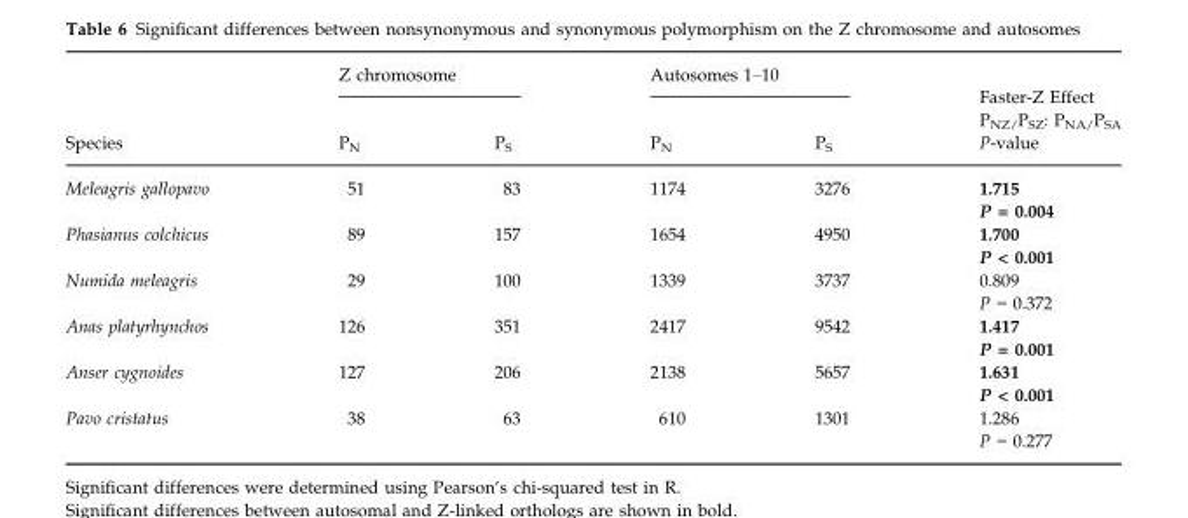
<table><thead><tr><td rowspan="2">Species</td><td colspan="2">Z chromosome</td><td colspan="2">Autosomes 1–10</td><td rowspan="2">Faster-Z Effect P<sub>NZ/</sub>P<sub>SZ</sub>: P<sub>NA/</sub>P<sub>SA</sub> P-value</td></tr><tr><td>P<sub>N</sub></td><td>P<sub>S</sub></td><td>P<sub>N</sub></td><td>P<sub>S</sub></td></tr></thead><tbody><tr><td>Meleagris gallopavo</td><td>51</td><td>83</td><td>1174</td><td>3276</td><td>1.715 P = 0.004</td></tr><tr><td>Phasianus colchicus</td><td>89</td><td>157</td><td>1654</td><td>4950</td><td>1.700 P &lt; 0.001</td></tr><tr><td>Numida meleagris</td><td>29</td><td>100</td><td>1339</td><td>3737</td><td>0.809 P = 0.372</td></tr><tr><td>Anas platyrhynchos</td><td>126</td><td>351</td><td>2417</td><td>9542</td><td>1.417 P = 0.001</td></tr><tr><td>Anser cygnoides</td><td>127</td><td>206</td><td>2138</td><td>5657</td><td>1.631 P &lt; 0.001</td></tr><tr><td>Pavo cristatus</td><td>38</td><td>63</td><td>610</td><td>1301</td><td>1.286 P = 0.277</td></tr></tbody></table>